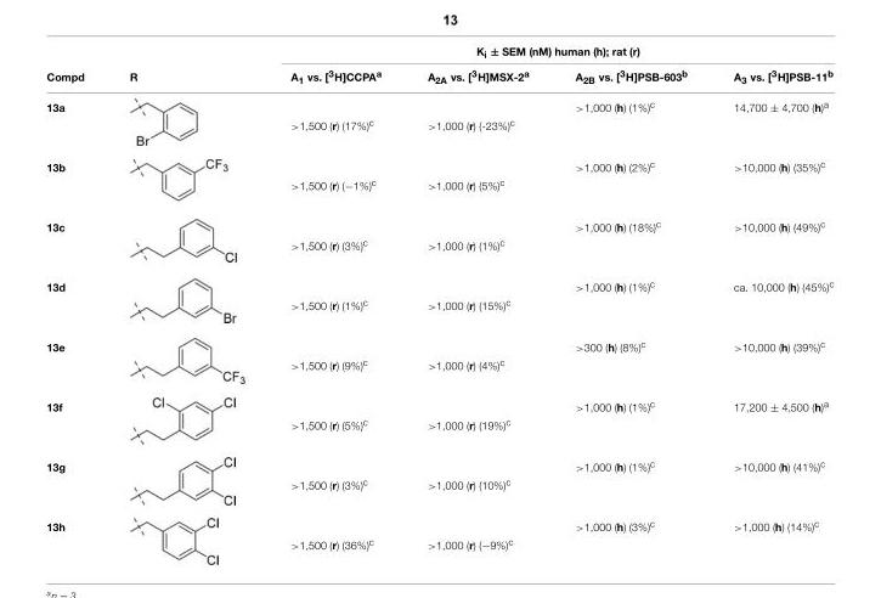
<table><thead><tr><td rowspan="2">Compd</td><td rowspan="2">R</td><td colspan="4">K<sub>i</sub> ± SEM (nM) human (h); rat (r)</td></tr><tr><td>A<sub>1</sub> vs. [<sup>3</sup>H]CCPA<sup>a</sup></td><td>A<sub>2A</sub> vs. [<sup>3</sup>H]MSX-2<sup>a</sup></td><td>A<sub>2B</sub> vs. [<sup>3</sup>H]PSB-603<sup>b</sup></td><td>A<sub>3</sub> vs. [<sup>3</sup>H]PSB-11<sup>b</sup></td></tr></thead><tbody><tr><td rowspan="2">13a</td><td></td><td></td><td></td><td>&gt;1,000 (h) (1%)<sup>c</sup></td><td>14,700 ± 4,700 (h)<sup>a</sup></td></tr><tr><td></td><td>&gt;1,500 (r) (17%)<sup>c</sup></td><td>&gt;1,000 (r) (-23%)<sup>c</sup></td><td></td><td></td></tr><tr><td rowspan="2">13b</td><td></td><td></td><td></td><td>&gt;1,000 (h) (2%)<sup>c</sup></td><td>&gt;10,000 (h) (35%)<sup>c</sup></td></tr><tr><td></td><td>&gt;1,500 (r) (−1%)<sup>c</sup></td><td>&gt;1,000 (r) (5%)<sup>c</sup></td><td></td><td></td></tr><tr><td rowspan="2">13c</td><td></td><td></td><td></td><td>&gt;1,000 (h) (18%)<sup>c</sup></td><td>&gt;10,000 (h) (49%)<sup>c</sup></td></tr><tr><td></td><td>&gt;1,500 (r) (3%)<sup>c</sup></td><td>&gt;1,000 (r) (1%)<sup>c</sup></td><td></td><td></td></tr><tr><td rowspan="2">13d</td><td></td><td></td><td></td><td>&gt;1,000 (h) (1%)<sup>c</sup></td><td>ca. 10,000 (h) (45%)<sup>c</sup></td></tr><tr><td></td><td>&gt;1,500 (r) (1%)<sup>c</sup></td><td>&gt;1,000 (r) (15%)<sup>c</sup></td><td></td><td></td></tr><tr><td rowspan="2">13e</td><td></td><td></td><td></td><td>&gt;300 (h) (8%)<sup>c</sup></td><td>&gt;10,000 (h) (39%)<sup>c</sup></td></tr><tr><td></td><td>&gt;1,500 (r) (9%)<sup>c</sup></td><td>&gt;1,000 (r) (4%)<sup>c</sup></td><td></td><td></td></tr><tr><td rowspan="2">13f</td><td></td><td></td><td></td><td>&gt;1,000 (h) (1%)<sup>c</sup></td><td>17,200 ± 4,500 (h)<sup>a</sup></td></tr><tr><td></td><td>&gt;1,500 (r) (5%)<sup>c</sup></td><td>&gt;1,000 (r) (19%)<sup>c</sup></td><td></td><td></td></tr><tr><td rowspan="2">13g</td><td></td><td></td><td></td><td>&gt;1,000 (h) (1%)<sup>c</sup></td><td>&gt;10,000 (h) (41%)<sup>c</sup></td></tr><tr><td></td><td>&gt;1,500 (r) (3%)<sup>c</sup></td><td>&gt;1,000 (r) (10%)<sup>c</sup></td><td></td><td></td></tr><tr><td rowspan="2">13h</td><td></td><td></td><td></td><td>&gt;1,000 (h) (3%)<sup>c</sup></td><td>&gt;1,000 (h) (14%)<sup>c</sup></td></tr><tr><td></td><td>&gt;1,500 (r) (36%)<sup>c</sup></td><td>&gt;1,000 (r) (−9%)<sup>c</sup></td><td></td><td></td></tr></tbody></table>